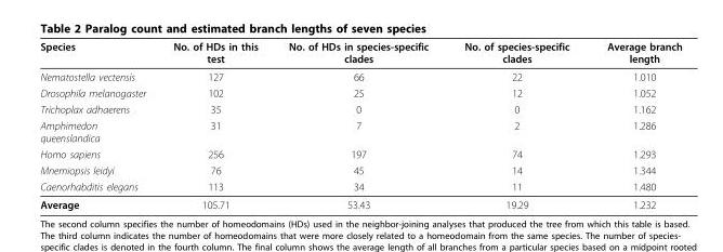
<table><thead><tr><td>Species</td><td>No. of HDs in this test</td><td>No. of HDs in species-specific clades</td><td>No. of species-specific clades</td><td>Average branch length</td></tr></thead><tbody><tr><td>Nematostella vectensis</td><td>127</td><td>66</td><td>22</td><td>1.010</td></tr><tr><td>Drosophila melanogaster</td><td>102</td><td>25</td><td>12</td><td>1.052</td></tr><tr><td>Trichoplax adhaerens</td><td>35</td><td>0</td><td>0</td><td>1.162</td></tr><tr><td>Amphimedon queenslandica</td><td>31</td><td>7</td><td>2</td><td>1.286</td></tr><tr><td>Homo sapiens</td><td>256</td><td>197</td><td>74</td><td>1.293</td></tr><tr><td>Mnemiopsis leidyi</td><td>76</td><td>45</td><td>14</td><td>1.344</td></tr><tr><td>Caenorhabditis elegans</td><td>113</td><td>34</td><td>11</td><td>1.480</td></tr><tr><td>Average</td><td>105.71</td><td>53.43</td><td>19.29</td><td>1.232</td></tr></tbody></table>